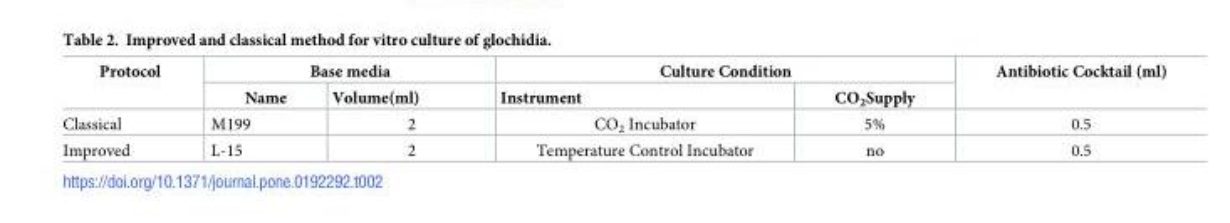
<table><thead><tr><td rowspan="2">Protocol</td><td colspan="2">Base media</td><td colspan="2">Culture Condition</td><td rowspan="2">Antibiotic Cocktail (ml)</td></tr><tr><td>Name</td><td>Volume(ml)</td><td>Instrument</td><td>CO<sub>2</sub>Supply</td></tr></thead><tbody><tr><td>Classical</td><td>M199</td><td>2</td><td>CO<sub>2</sub> Incubator</td><td>5%</td><td>0.5</td></tr><tr><td>Improved</td><td>L-15</td><td>2</td><td>Temperature Control Incubator</td><td>no</td><td>0.5</td></tr></tbody></table>